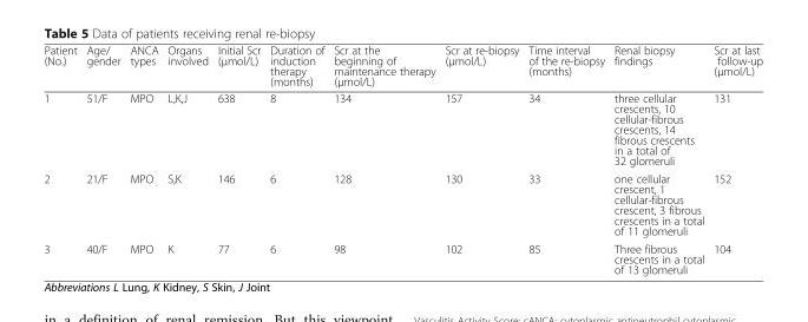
<table><thead><tr><td>Patient (No.)</td><td>Age/ gender</td><td>ANCA types</td><td>Organs involved</td><td>Initial Scr (μmol/L)</td><td>Duration of induction therapy (months)</td><td>Scr at the beginning of maintenance therapy (μmol/L)</td><td>Scr at re-biopsy (μmol/L)</td><td>Time interval of the re-biopsy (months)</td><td>Renal biopsy findings</td><td>Scr at last follow-up (μmol/L)</td></tr></thead><tbody><tr><td>1</td><td>51/F</td><td>MPO</td><td>L,K,J</td><td>638</td><td>8</td><td>134</td><td>157</td><td>34</td><td>three cellular crescents, 10 cellular-fibrous crescents, 14 fibrous crescents in a total of 32 glomeruli</td><td>131</td></tr><tr><td>2</td><td>21/F</td><td>MPO</td><td>S,K</td><td>146</td><td>6</td><td>128</td><td>130</td><td>33</td><td>one cellular crescent, 1 cellular-fibrous crescent, 3 fibrous crescents in a total of 11 glomeruli</td><td>152</td></tr><tr><td>3</td><td>40/F</td><td>MPO</td><td>K</td><td>77</td><td>6</td><td>98</td><td>102</td><td>85</td><td>Three fibrous crescents in a total of 13 glomeruli</td><td>104</td></tr></tbody></table>